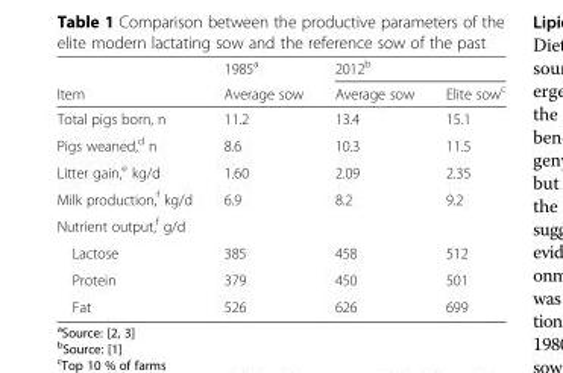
<table><thead><tr><td rowspan="2">Item</td><td rowspan="2">1985<sup>a</sup> Average sow</td><td colspan="2">2012<sup>b</sup></td></tr><tr><td>Average sow</td><td>Elite sow<sup>c</sup></td></tr></thead><tbody><tr><td>Total pigs born, n</td><td>11.2</td><td>13.4</td><td>15.1</td></tr><tr><td>Pigs weaned,<sup>d</sup> n</td><td>8.6</td><td>10.3</td><td>11.5</td></tr><tr><td>Litter gain,<sup>e</sup> kg/d</td><td>1.60</td><td>2.09</td><td>2.35</td></tr><tr><td>Milk production,<sup>f</sup> kg/d</td><td>6.9</td><td>8.2</td><td>9.2</td></tr><tr><td colspan="4">Nutrient output,<sup>f</sup> g/d</td></tr><tr><td>Lactose</td><td>385</td><td>458</td><td>512</td></tr><tr><td>Protein</td><td>379</td><td>450</td><td>501</td></tr><tr><td>Fat</td><td>526</td><td>626</td><td>699</td></tr></tbody></table>